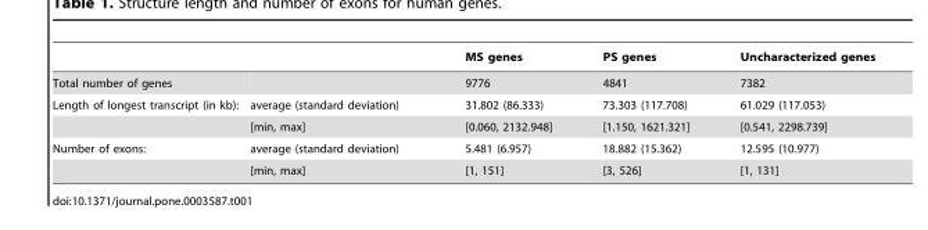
<table><thead><tr><td></td><td></td><td>MS genes</td><td>PS genes</td><td>Uncharacterized genes</td></tr></thead><tbody><tr><td>Total number of genes</td><td></td><td>9776</td><td>4841</td><td>7382</td></tr><tr><td rowspan="2">Length of longest transcript (in kb):</td><td>average (standard deviation)</td><td>31.802 (86.333)</td><td>73.303 (117.708)</td><td>61.029 (117.053)</td></tr><tr><td>[min, max]</td><td>[0.060, 2132.948]</td><td>[1.150, 1621.321]</td><td>[0.541, 2298.739]</td></tr><tr><td rowspan="2">Number of exons:</td><td>average (standard deviation)</td><td>5.481 (6.957)</td><td>18.882 (15.362)</td><td>12.595 (10.977)</td></tr><tr><td>[min, max]</td><td>[1, 151]</td><td>[3, 526]</td><td>[1, 131]</td></tr></tbody></table>